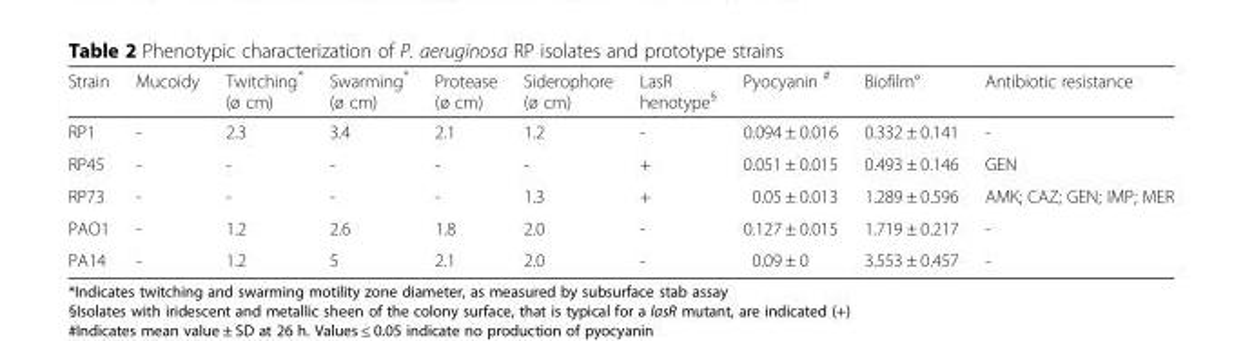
<table><thead><tr><td>Strain</td><td>Mucoidy</td><td>Twitching* (ø cm)</td><td>Swarming* (ø cm)</td><td>Protease (ø cm)</td><td>Siderophore (ø cm)</td><td>LasR henotype<sup>§</sup></td><td>Pyocyanin <sup>#</sup></td><td>Biofilm°</td><td>Antibiotic resistance</td></tr></thead><tbody><tr><td>RP1</td><td>-</td><td>2.3</td><td>3.4</td><td>2.1</td><td>1.2</td><td>-</td><td>0.094 ± 0.016</td><td>0.332 ± 0.141</td><td>-</td></tr><tr><td>RP45</td><td>-</td><td>-</td><td>-</td><td>-</td><td>-</td><td>+</td><td>0.051 ± 0.015</td><td>0.493 ± 0.146</td><td>GEN</td></tr><tr><td>RP73</td><td>-</td><td>-</td><td>-</td><td>-</td><td>1.3</td><td>+</td><td>0.05 ± 0.013</td><td>1.289 ± 0.596</td><td>AMK; CAZ; GEN; IMP; MER</td></tr><tr><td>PAO1</td><td>-</td><td>1.2</td><td>2.6</td><td>1.8</td><td>2.0</td><td>-</td><td>0.127 ± 0.015</td><td>1.719 ± 0.217</td><td>-</td></tr><tr><td>PA14</td><td>-</td><td>1.2</td><td>5</td><td>2.1</td><td>2.0</td><td>-</td><td>0.09 ± 0</td><td>3.553 ± 0.457</td><td>-</td></tr></tbody></table>